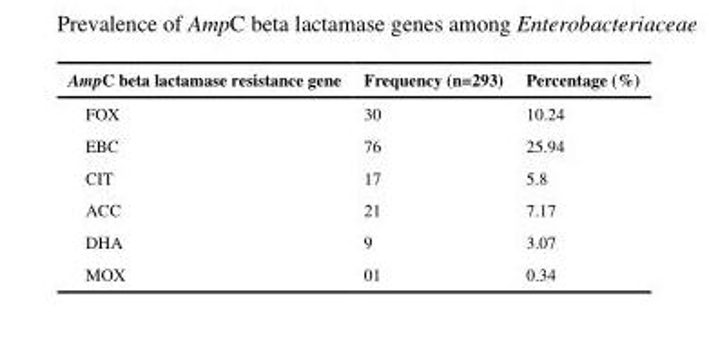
<table><thead><tr><td>AmpC beta lactamase resistance gene</td><td>Frequency (n=293)</td><td>Percentage (%)</td></tr></thead><tbody><tr><td>FOX</td><td>30</td><td>10.24</td></tr><tr><td>EBC</td><td>76</td><td>25.94</td></tr><tr><td>CIT</td><td>17</td><td>5.8</td></tr><tr><td>ACC</td><td>21</td><td>7.17</td></tr><tr><td>DHA</td><td>9</td><td>3.07</td></tr><tr><td>MOX</td><td>01</td><td>0.34</td></tr></tbody></table>